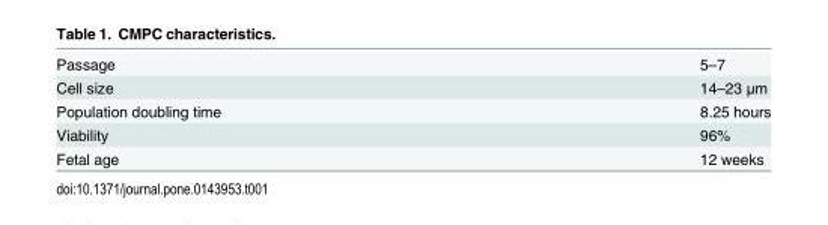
<table><tbody><tr><td>Passage</td><td>5–7</td></tr><tr><td>Cell size</td><td>14–23 μm</td></tr><tr><td>Population doubling time</td><td>8.25 hours</td></tr><tr><td>Viability</td><td>96%</td></tr><tr><td>Fetal age</td><td>12 weeks</td></tr></tbody></table>